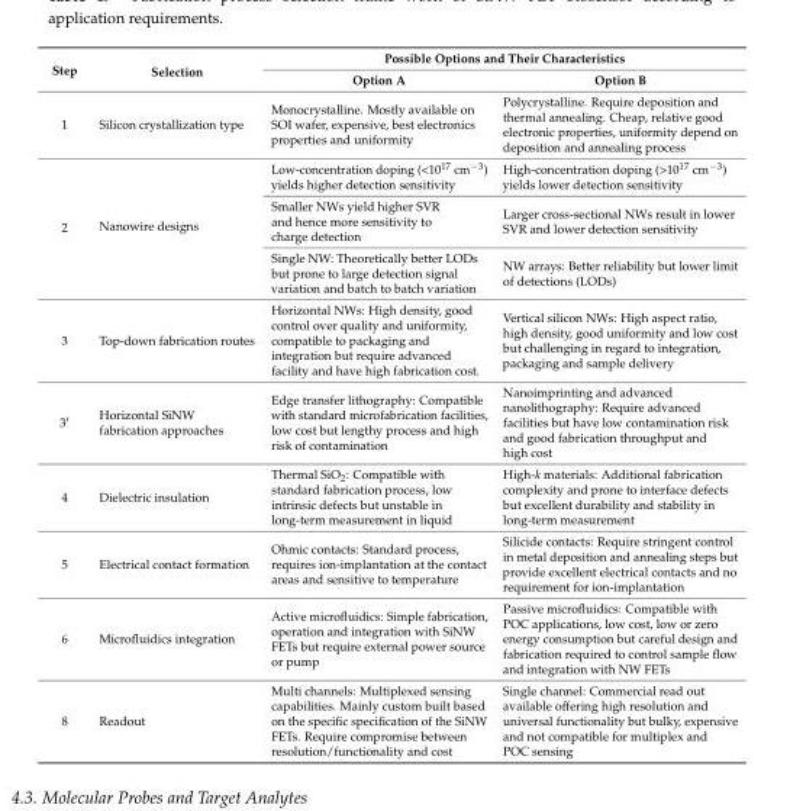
<table><thead><tr><td rowspan="2">Step</td><td rowspan="2">Selection</td><td colspan="2">Possible Options and Their Characteristics</td></tr><tr><td>Option A</td><td>Option B</td></tr></thead><tbody><tr><td>1</td><td>Silicon crystallization type</td><td>Monocrystalline. Mostly available on SOI wafer, expensive, best electronics properties and uniformity</td><td>Polycrystalline. Require deposition and thermal annealing. Cheap, relative good electronic properties, uniformity depend on deposition and annealing process</td></tr><tr><td rowspan="3">2</td><td rowspan="3">Nanowire designs</td><td>Low-concentration doping (&lt;10<sup>17</sup> cm<sup>−3</sup>) yields higher detection sensitivity</td><td>High-concentration doping (&gt;10<sup>17</sup> cm<sup>−3</sup>) yields lower detection sensitivity</td></tr><tr><td>Smaller NWs yield higher SVR and hence more sensitivity to charge detection</td><td>Larger cross-sectional NWs result in lower SVR and lower detection sensitivity</td></tr><tr><td>Single NW: Theoretically better LODs but prone to large detection signal variation and batch to batch variation</td><td>NW arrays: Better reliability but lower limit of detections (LODs)</td></tr><tr><td>3</td><td>Top-down fabrication routes</td><td>Horizontal NWs: High density, good control over quality and uniformity, compatible to packaging and integration but require advanced facility and have high fabrication cost.</td><td>Vertical silicon NWs: High aspect ratio, high density, good uniformity and low cost but challenging in regard to integration, packaging and sample delivery</td></tr><tr><td>3′</td><td>Horizontal SiNW fabrication approaches</td><td>Edge transfer lithography: Compatible with standard microfabrication facilities, low cost but lengthy process and high risk of contamination</td><td>Nanoimprinting and advanced nanolithography: Require advanced facilities but have low contamination risk and good fabrication throughput and high cost</td></tr><tr><td>4</td><td>Dielectric insulation</td><td>Thermal SiO<sub>2</sub>: Compatible with standard fabrication process, low intrinsic defects but unstable in long-term measurement in liquid</td><td>High-k materials: Additional fabrication complexity and prone to interface defects but excellent durability and stability in long-term measurement</td></tr><tr><td>5</td><td>Electrical contact formation</td><td>Ohmic contacts: Standard process, requires ion-implantation at the contact areas and sensitive to temperature</td><td>Silicide contacts: Require stringent control in metal deposition and annealing steps but provide excellent electrical contacts and no requirement for ion-implantation</td></tr><tr><td>6</td><td>Microfluidics integration</td><td>Active microfluidics: Simple fabrication, operation and integration with SiNW FETs but require external power source or pump</td><td>Passive microfluidics: Compatible with POC applications, low cost, low or zero energy consumption but careful design and fabrication required to control sample flow and integration with NW FETs</td></tr><tr><td>8</td><td>Readout</td><td>Multi channels: Multiplexed sensing capabilities. Mainly custom built based on the specific specification of the SiNW FETs. Require compromise between resolution/functionality and cost</td><td>Single channel: Commercial read out available offering high resolution and universal functionality but bulky, expensive and not compatible for multiplex and POC sensing</td></tr></tbody></table>